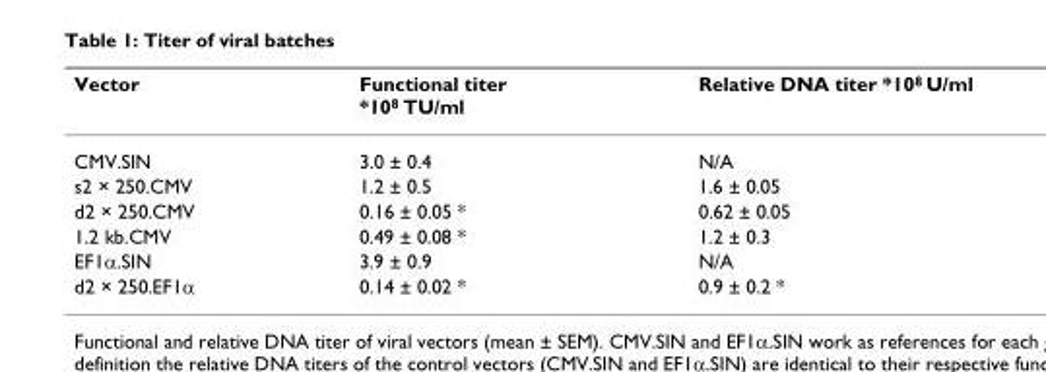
<table><thead><tr><td>Vector</td><td>Functional titer *10<sup>8</sup> TU/ml</td><td>Relative DNA titer *10<sup>8</sup> U/ml</td></tr></thead><tbody><tr><td>CMV.SIN</td><td>3.0 ± 0.4</td><td>N/A</td></tr><tr><td>s2 × 250.CMV</td><td>1.2 ± 0.5</td><td>1.6 ± 0.05</td></tr><tr><td>d2 × 250.CMV</td><td>0.16 ± 0.05 *</td><td>0.62 ± 0.05</td></tr><tr><td>1.2 kb.CMV</td><td>0.49 ± 0.08 *</td><td>1.2 ± 0.3</td></tr><tr><td>EF1α.SIN</td><td>3.9 ± 0.9</td><td>N/A</td></tr><tr><td>d2 × 250.EF1α</td><td>0.14 ± 0.02 *</td><td>0.9 ± 0.2 *</td></tr></tbody></table>